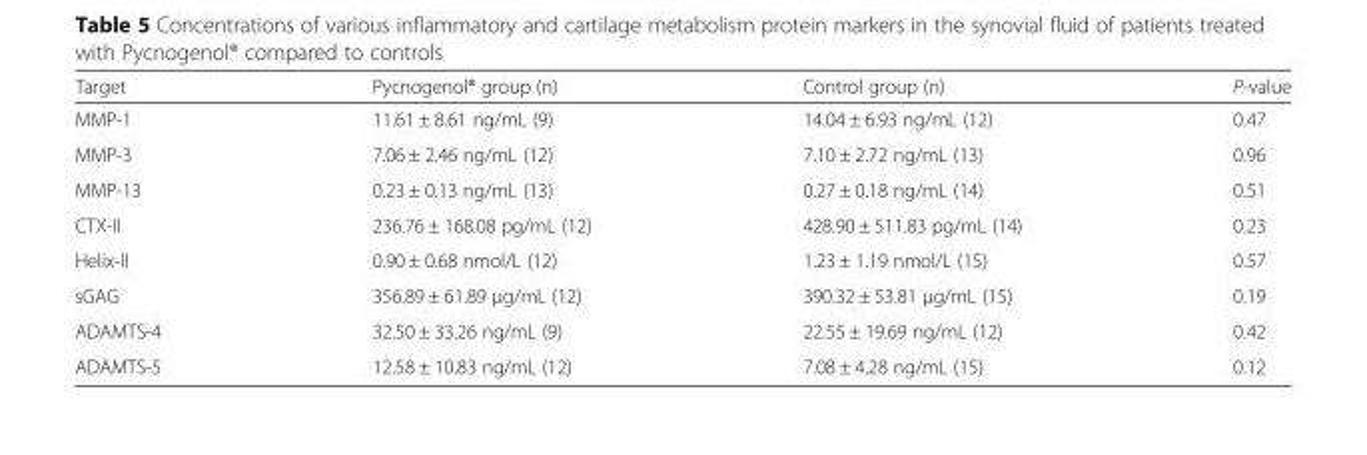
<table><thead><tr><td>Target</td><td>Pycnogenol® group (n)</td><td>Control group (n)</td><td>P-value</td></tr></thead><tbody><tr><td>MMP-1</td><td>11.61 ± 8.61 ng/mL (9)</td><td>14.04 ± 6.93 ng/mL (12)</td><td>0.47</td></tr><tr><td>MMP-3</td><td>7.06 ± 2.46 ng/mL (12)</td><td>7.10 ± 2.72 ng/mL (13)</td><td>0.96</td></tr><tr><td>MMP-13</td><td>0.23 ± 0.13 ng/mL (13)</td><td>0.27 ± 0.18 ng/mL (14)</td><td>0.51</td></tr><tr><td>CTX-II</td><td>236.76 ± 168.08 pg/mL (12)</td><td>428.90 ± 511.83 pg/mL (14)</td><td>0.23</td></tr><tr><td>Helix-II</td><td>0.90 ± 0.68 nmol/L (12)</td><td>1.23 ± 1.19 nmol/L (15)</td><td>0.57</td></tr><tr><td>sGAG</td><td>356.89 ± 61.89 μg/mL (12)</td><td>390.32 ± 53.81 μg/mL (15)</td><td>0.19</td></tr><tr><td>ADAMTS-4</td><td>32.50 ± 33.26 ng/mL (9)</td><td>22.55 ± 19.69 ng/mL (12)</td><td>0.42</td></tr><tr><td>ADAMTS-5</td><td>12.58 ± 10.83 ng/mL (12)</td><td>7.08 ± 4.28 ng/mL (15)</td><td>0.12</td></tr></tbody></table>